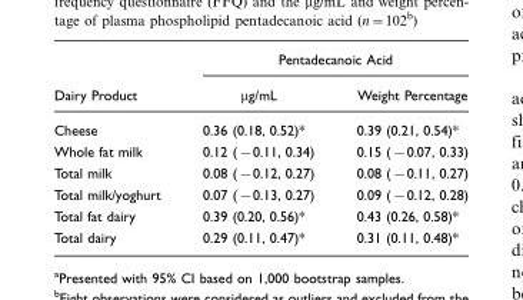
<table><thead><tr><td rowspan="2">Dairy Product</td><td colspan="2">Pentadecanoic Acid</td></tr><tr><td>µg/mL</td><td>Weight Percentage</td></tr></thead><tbody><tr><td>Cheese</td><td>0.36 (0.18, 0.52)*</td><td>0.39 (0.21, 0.54)*</td></tr><tr><td>Whole fat milk</td><td>0.12 (−0.11, 0.34)</td><td>0.15 (−0.07, 0.33)</td></tr><tr><td>Total milk</td><td>0.08 (−0.12, 0.27)</td><td>0.08 (−0.11, 0.27)</td></tr><tr><td>Total milk/yoghurt</td><td>0.07 (−0.13, 0.27)</td><td>0.09 (−0.12, 0.28)</td></tr><tr><td>Total fat dairy</td><td>0.39 (0.20, 0.56)*</td><td>0.43 (0.26, 0.58)*</td></tr><tr><td>Total dairy</td><td>0.29 (0.11, 0.47)*</td><td>0.31 (0.11, 0.48)*</td></tr></tbody></table>